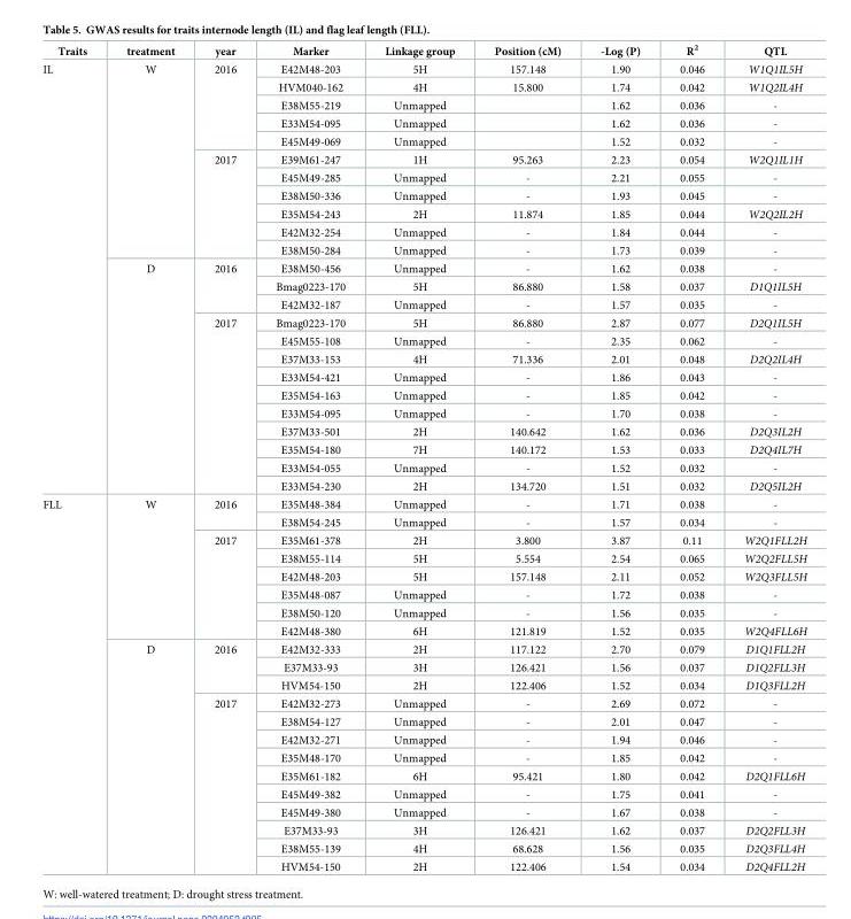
<table><thead><tr><td>Traits</td><td>treatment</td><td>year</td><td>Marker</td><td>Linkage group</td><td>Position (cM)</td><td>-Log (P)</td><td>R<sup>2</sup></td><td>QTL</td></tr></thead><tbody><tr><td rowspan="24">IL</td><td rowspan="11">W</td><td rowspan="5">2016</td><td>E42M48-203</td><td>5H</td><td>157.148</td><td>1.90</td><td>0.046</td><td>W1Q1IL5H</td></tr><tr><td>HVM040-162</td><td>4H</td><td>15.800</td><td>1.74</td><td>0.042</td><td>W1Q2IL4H</td></tr><tr><td>E38M55-219</td><td>Unmapped</td><td></td><td>1.62</td><td>0.036</td><td>-</td></tr><tr><td>E33M54-095</td><td>Unmapped</td><td></td><td>1.62</td><td>0.036</td><td>-</td></tr><tr><td>E45M49-069</td><td>Unmapped</td><td></td><td>1.52</td><td>0.032</td><td>-</td></tr><tr><td rowspan="6">2017</td><td>E39M61-247</td><td>1H</td><td>95.263</td><td>2.23</td><td>0.054</td><td>W2Q1IL1H</td></tr><tr><td>E45M49-285</td><td>Unmapped</td><td>-</td><td>2.21</td><td>0.055</td><td>-</td></tr><tr><td>E38M50-336</td><td>Unmapped</td><td>-</td><td>1.93</td><td>0.045</td><td>-</td></tr><tr><td>E35M54-243</td><td>2H</td><td>11.874</td><td>1.85</td><td>0.044</td><td>W2Q2IL2H</td></tr><tr><td>E42M32-254</td><td>Unmapped</td><td>-</td><td>1.84</td><td>0.044</td><td>-</td></tr><tr><td>E38M50-284</td><td>Unmapped</td><td>-</td><td>1.73</td><td>0.039</td><td>-</td></tr><tr><td rowspan="13">D</td><td rowspan="3">2016</td><td>E38M50-456</td><td>Unmapped</td><td>-</td><td>1.62</td><td>0.038</td><td>-</td></tr><tr><td>Bmag0223-170</td><td>5H</td><td>86.880</td><td>1.58</td><td>0.037</td><td>D1Q1IL5H</td></tr><tr><td>E42M32-187</td><td>Unmapped</td><td>-</td><td>1.57</td><td>0.035</td><td>-</td></tr><tr><td rowspan="10">2017</td><td>Bmag0223-170</td><td>5H</td><td>86.880</td><td>2.87</td><td>0.077</td><td>D2Q1IL5H</td></tr><tr><td>E45M55-108</td><td>Unmapped</td><td>-</td><td>2.35</td><td>0.062</td><td>-</td></tr><tr><td>E37M33-153</td><td>4H</td><td>71.336</td><td>2.01</td><td>0.048</td><td>D2Q2IL4H</td></tr><tr><td>E33M54-421</td><td>Unmapped</td><td>-</td><td>1.86</td><td>0.043</td><td>-</td></tr><tr><td>E35M54-163</td><td>Unmapped</td><td>-</td><td>1.85</td><td>0.042</td><td>-</td></tr><tr><td>E33M54-095</td><td>Unmapped</td><td>-</td><td>1.70</td><td>0.038</td><td>-</td></tr><tr><td>E37M33-501</td><td>2H</td><td>140.642</td><td>1.62</td><td>0.036</td><td>D2Q3IL2H</td></tr><tr><td>E35M54-180</td><td>7H</td><td>140.172</td><td>1.53</td><td>0.033</td><td>D2Q4IL7H</td></tr><tr><td>E33M54-055</td><td>Unmapped</td><td>-</td><td>1.52</td><td>0.032</td><td>-</td></tr><tr><td>E33M54-230</td><td>2H</td><td>134.720</td><td>1.51</td><td>0.032</td><td>D2Q5IL2H</td></tr><tr><td rowspan="21">FLL</td><td rowspan="8">W</td><td rowspan="2">2016</td><td>E35M48-384</td><td>Unmapped</td><td>-</td><td>1.71</td><td>0.038</td><td>-</td></tr><tr><td>E38M54-245</td><td>Unmapped</td><td>-</td><td>1.57</td><td>0.034</td><td>-</td></tr><tr><td rowspan="6">2017</td><td>E35M61-378</td><td>2H</td><td>3.800</td><td>3.87</td><td>0.11</td><td>W2Q1FLL2H</td></tr><tr><td>E38M55-114</td><td>5H</td><td>5.554</td><td>2.54</td><td>0.065</td><td>W2Q2FLL5H</td></tr><tr><td>E42M48-203</td><td>5H</td><td>157.148</td><td>2.11</td><td>0.052</td><td>W2Q3FLL5H</td></tr><tr><td>E35M48-087</td><td>Unmapped</td><td>-</td><td>1.72</td><td>0.038</td><td>-</td></tr><tr><td>E38M50-120</td><td>Unmapped</td><td>-</td><td>1.56</td><td>0.035</td><td>-</td></tr><tr><td>E42M48-380</td><td>6H</td><td>121.819</td><td>1.52</td><td>0.035</td><td>W2Q4FLL6H</td></tr><tr><td rowspan="13">D</td><td rowspan="3">2016</td><td>E42M32-333</td><td>2H</td><td>117.122</td><td>2.70</td><td>0.079</td><td>D1Q1FLL2H</td></tr><tr><td>E37M33-93</td><td>3H</td><td>126.421</td><td>1.56</td><td>0.037</td><td>D1Q2FLL3H</td></tr><tr><td>HVM54-150</td><td>2H</td><td>122.406</td><td>1.52</td><td>0.034</td><td>D1Q3FLL2H</td></tr><tr><td rowspan="10">2017</td><td>E42M32-273</td><td>Unmapped</td><td>-</td><td>2.69</td><td>0.072</td><td>-</td></tr><tr><td>E38M54-127</td><td>Unmapped</td><td>-</td><td>2.01</td><td>0.047</td><td>-</td></tr><tr><td>E42M32-271</td><td>Unmapped</td><td>-</td><td>1.94</td><td>0.046</td><td>-</td></tr><tr><td>E35M48-170</td><td>Unmapped</td><td>-</td><td>1.85</td><td>0.042</td><td>-</td></tr><tr><td>E35M61-182</td><td>6H</td><td>95.421</td><td>1.80</td><td>0.042</td><td>D2Q1FLL6H</td></tr><tr><td>E45M49-382</td><td>Unmapped</td><td>-</td><td>1.75</td><td>0.041</td><td>-</td></tr><tr><td>E45M49-380</td><td>Unmapped</td><td>-</td><td>1.67</td><td>0.038</td><td>-</td></tr><tr><td>E37M33-93</td><td>3H</td><td>126.421</td><td>1.62</td><td>0.037</td><td>D2Q2FLL3H</td></tr><tr><td>E38M55-139</td><td>4H</td><td>68.628</td><td>1.56</td><td>0.035</td><td>D2Q3FLL4H</td></tr><tr><td>HVM54-150</td><td>2H</td><td>122.406</td><td>1.54</td><td>0.034</td><td>D2Q4FLL2H</td></tr></tbody></table>